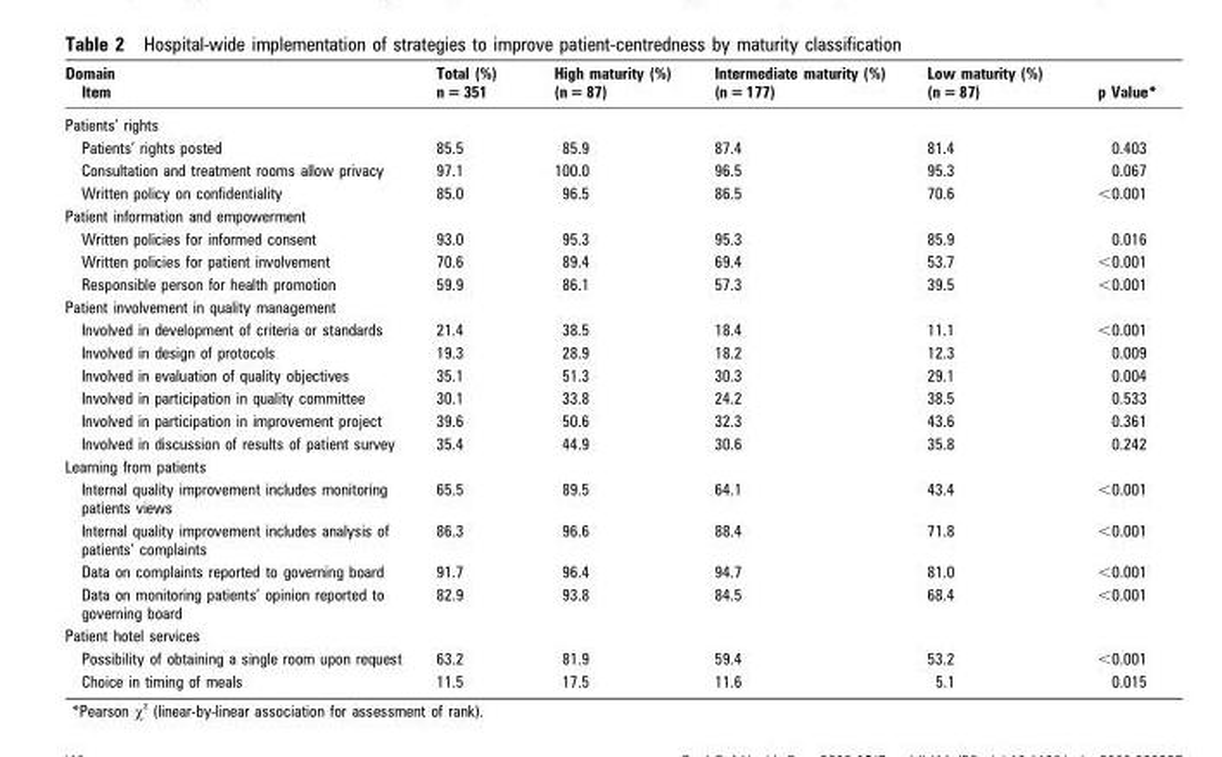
<table><thead><tr><td>Domain Item</td><td>Total (%) n = 351</td><td>High maturity (%) (n = 87)</td><td>Intermediate maturity (%) (n = 177)</td><td>Low maturity (%) (n = 87)</td><td>p Value*</td></tr></thead><tbody><tr><td colspan="6">Patients’ rights</td></tr><tr><td>Patients’ rights posted</td><td>85.5</td><td>85.9</td><td>87.4</td><td>81.4</td><td>0.403</td></tr><tr><td>Consultation and treatment rooms allow privacy</td><td>97.1</td><td>100.0</td><td>96.5</td><td>95.3</td><td>0.067</td></tr><tr><td>Written policy on confidentiality</td><td>85.0</td><td>96.5</td><td>86.5</td><td>70.6</td><td>&lt;0.001</td></tr><tr><td colspan="6">Patient information and empowerment</td></tr><tr><td>Written policies for informed consent</td><td>93.0</td><td>95.3</td><td>95.3</td><td>85.9</td><td>0.016</td></tr><tr><td>Written policies for patient involvement</td><td>70.6</td><td>89.4</td><td>69.4</td><td>53.7</td><td>&lt;0.001</td></tr><tr><td>Responsible person for health promotion</td><td>59.9</td><td>86.1</td><td>57.3</td><td>39.5</td><td>&lt;0.001</td></tr><tr><td colspan="6">Patient involvement in quality management</td></tr><tr><td>Involved in development of criteria or standards</td><td>21.4</td><td>38.5</td><td>18.4</td><td>11.1</td><td>&lt;0.001</td></tr><tr><td>Involved in design of protocols</td><td>19.3</td><td>28.9</td><td>18.2</td><td>12.3</td><td>0.009</td></tr><tr><td>Involved in evaluation of quality objectives</td><td>35.1</td><td>51.3</td><td>30.3</td><td>29.1</td><td>0.004</td></tr><tr><td>Involved in participation in quality committee</td><td>30.1</td><td>33.8</td><td>24.2</td><td>38.5</td><td>0.533</td></tr><tr><td>Involved in participation in improvement project</td><td>39.6</td><td>50.6</td><td>32.3</td><td>43.6</td><td>0.361</td></tr><tr><td>Involved in discussion of results of patient survey</td><td>35.4</td><td>44.9</td><td>30.6</td><td>35.8</td><td>0.242</td></tr><tr><td colspan="6">Learning from patients</td></tr><tr><td>Internal quality improvement includes monitoring patients views</td><td>65.5</td><td>89.5</td><td>64.1</td><td>43.4</td><td>&lt;0.001</td></tr><tr><td>Internal quality improvement includes analysis of patients’ complaints</td><td>86.3</td><td>96.6</td><td>88.4</td><td>71.8</td><td>&lt;0.001</td></tr><tr><td>Data on complaints reported to governing board</td><td>91.7</td><td>96.4</td><td>94.7</td><td>81.0</td><td>&lt;0.001</td></tr><tr><td>Data on monitoring patients’ opinion reported to governing board</td><td>82.9</td><td>93.8</td><td>84.5</td><td>68.4</td><td>&lt;0.001</td></tr><tr><td colspan="6">Patient hotel services</td></tr><tr><td>Possibility of obtaining a single room upon request</td><td>63.2</td><td>81.9</td><td>59.4</td><td>53.2</td><td>&lt;0.001</td></tr><tr><td>Choice in timing of meals</td><td>11.5</td><td>17.5</td><td>11.6</td><td>5.1</td><td>0.015</td></tr></tbody></table>